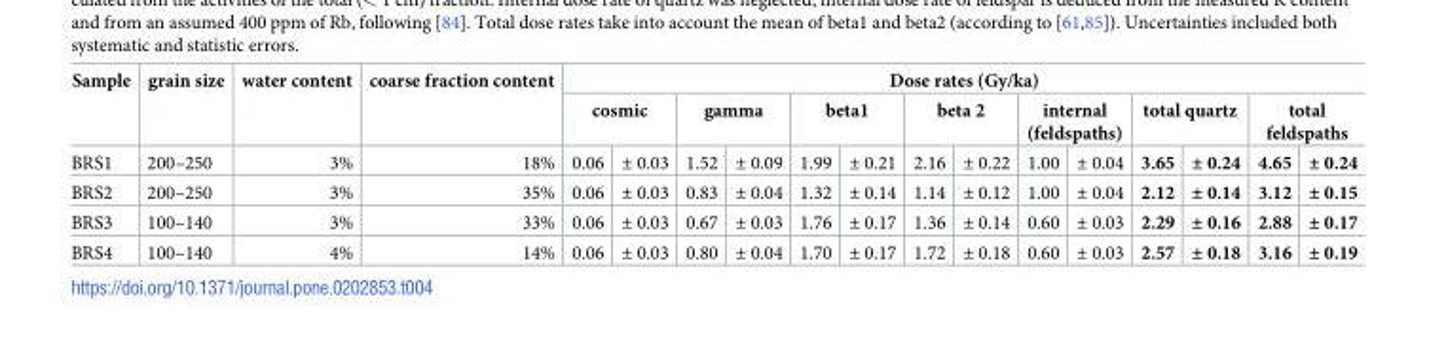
<table><thead><tr><td rowspan="3">Sample BRS1</td><td rowspan="3">grain size 200–250</td><td rowspan="3">water content 3%</td><td rowspan="3">coarse fraction content 18%</td><td colspan="14">Dose rates (Gy/ka)</td></tr><tr><td colspan="2">cosmic</td><td colspan="2">gamma</td><td colspan="2">beta1</td><td colspan="2">beta 2</td><td colspan="2">internal (feldspaths)</td><td colspan="2">total quartz</td><td colspan="2">total feldspaths</td></tr><tr><td>0.06</td><td>± 0.03</td><td>1.52</td><td>± 0.09</td><td>1.99</td><td>± 0.21</td><td>2.16</td><td>± 0.22</td><td>1.00</td><td>± 0.04</td><td>3.65</td><td>± 0.24</td><td>4.65</td><td>± 0.24</td></tr></thead><tbody><tr><td>BRS2</td><td>200–250</td><td>3%</td><td>35%</td><td>0.06</td><td>± 0.03</td><td>0.83</td><td>± 0.04</td><td>1.32</td><td>± 0.14</td><td>1.14</td><td>± 0.12</td><td>1.00</td><td>± 0.04</td><td>2.12</td><td>± 0.14</td><td>3.12</td><td>± 0.15</td></tr><tr><td>BRS3</td><td>100–140</td><td>3%</td><td>33%</td><td>0.06</td><td>± 0.03</td><td>0.67</td><td>± 0.03</td><td>1.76</td><td>± 0.17</td><td>1.36</td><td>± 0.14</td><td>0.60</td><td>± 0.03</td><td>2.29</td><td>± 0.16</td><td>2.88</td><td>± 0.17</td></tr><tr><td>BRS4</td><td>100–140</td><td>4%</td><td>14%</td><td>0.06</td><td>± 0.03</td><td>0.80</td><td>± 0.04</td><td>1.70</td><td>± 0.17</td><td>1.72</td><td>± 0.18</td><td>0.60</td><td>± 0.03</td><td>2.57</td><td>± 0.18</td><td>3.16</td><td>± 0.19</td></tr></tbody></table>